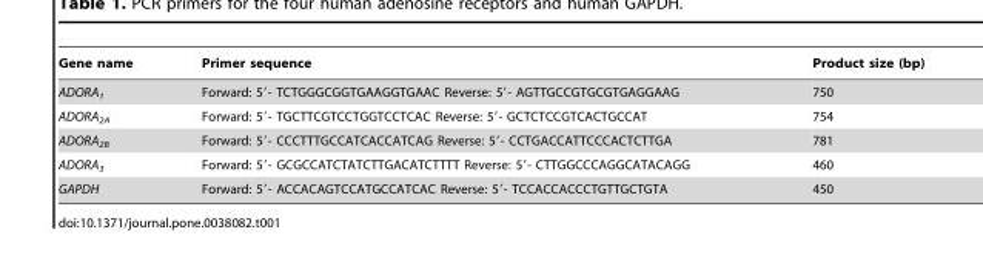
<table><thead><tr><td>Gene name</td><td>Primer sequence</td><td>Product size (bp)</td></tr></thead><tbody><tr><td>ADORA<sub>1</sub></td><td>Forward: 5′- TCTGGGCGGTGAAGGTGAAC Reverse: 5′- AGTTGCCGTGCGTGAGGAAG</td><td>750</td></tr><tr><td>ADORA<sub>2A</sub></td><td>Forward: 5′- TGCTTCGTCCTGGTCCTCAC Reverse: 5′- GCTCTCCGTCACTGCCAT</td><td>754</td></tr><tr><td>ADORA<sub>2B</sub></td><td>Forward: 5′- CCCTTTGCCATCACCATCAG Reverse: 5′- CCTGACCATTCCCACTCTTGA</td><td>781</td></tr><tr><td>ADORA<sub>3</sub></td><td>Forward: 5′- GCGCCATCTATCTTGACATCTTTT Reverse: 5′- CTTGGCCCAGGCATACAGG</td><td>460</td></tr><tr><td>GAPDH</td><td>Forward: 5′- ACCACAGTCCATGCCATCAC Reverse: 5′- TCCACCACCCTGTTGCTGTA</td><td>450</td></tr></tbody></table>